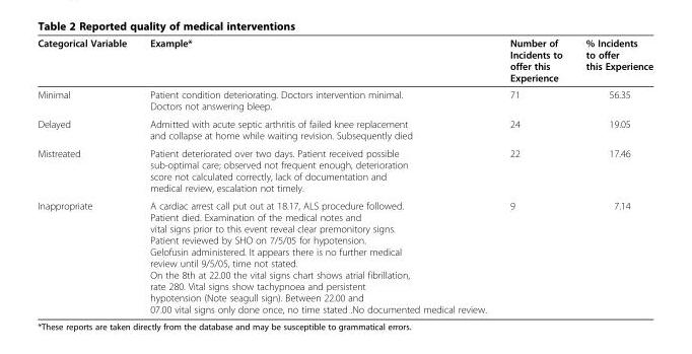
<table><thead><tr><td>Categorical Variable</td><td>Example*</td><td>Number of Incidents to offer this Experience</td><td>% Incidents to offer this Experience</td></tr></thead><tbody><tr><td>Minimal</td><td>Patient condition deteriorating. Doctors intervention minimal. Doctors not answering bleep.</td><td>71</td><td>56.35</td></tr><tr><td>Delayed</td><td>Admitted with acute septic arthritis of failed knee replacement and collapse at home while waiting revision. Subsequently died</td><td>24</td><td>19.05</td></tr><tr><td>Mistreated</td><td>Patient deteriorated over two days. Patient received possible sub-optimal care; observed not frequent enough, deterioration score not calculated correctly, lack of documentation and medical review, escalation not timely.</td><td>22</td><td>17.46</td></tr><tr><td>Inappropriate</td><td>A cardiac arrest call put out at 18.17, ALS procedure followed. Patient died. Examination of the medical notes and vital signs prior to this event reveal clear premonitory signs. Patient reviewed by SHO on 7/5/05 for hypotension. Gelofusin administered. It appears there is no further medical review until 9/5/05, time not stated. On the 8th at 22.00 the vital signs chart shows atrial fibrillation, rate 280. Vital signs show tachypnoea and persistent hypotension (Note seagull sign). Between 22.00 and 07.00 vital signs only done once, no time stated .No documented medical review.</td><td>9</td><td>7.14</td></tr></tbody></table>